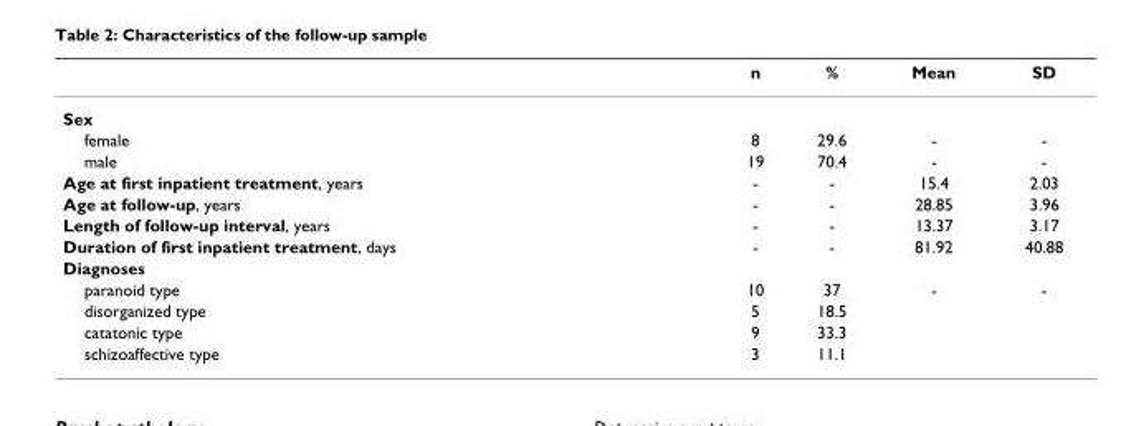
<table><thead><tr><td></td><td>n</td><td>%</td><td>Mean</td><td>SD</td></tr></thead><tbody><tr><td colspan="5">Sex</td></tr><tr><td>female</td><td>8</td><td>29.6</td><td>-</td><td>-</td></tr><tr><td>male</td><td>19</td><td>70.4</td><td>-</td><td>-</td></tr><tr><td>Age at first inpatient treatment, years</td><td>-</td><td>-</td><td>15.4</td><td>2.03</td></tr><tr><td>Age at follow-up, years</td><td>-</td><td>-</td><td>28.85</td><td>3.96</td></tr><tr><td>Length of follow-up interval, years</td><td>-</td><td>-</td><td>13.37</td><td>3.17</td></tr><tr><td>Duration of first inpatient treatment, days</td><td>-</td><td>-</td><td>81.92</td><td>40.88</td></tr><tr><td colspan="5">Diagnoses</td></tr><tr><td>paranoid type</td><td>10</td><td>37</td><td>-</td><td>-</td></tr><tr><td>disorganized type</td><td>5</td><td>18.5</td><td></td><td></td></tr><tr><td>catatonic type</td><td>9</td><td>33.3</td><td></td><td></td></tr><tr><td>schizoaffective type</td><td>3</td><td>11.1</td><td></td><td></td></tr></tbody></table>